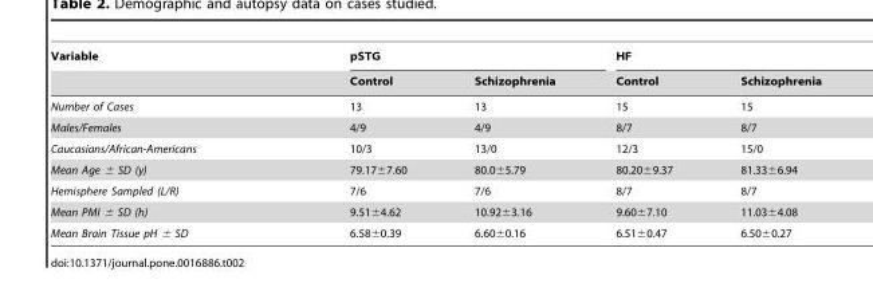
<table><thead><tr><td rowspan="2">Variable</td><td colspan="2">pSTG</td><td colspan="2">HF</td></tr><tr><td>Control</td><td>Schizophrenia</td><td>Control</td><td>Schizophrenia</td></tr></thead><tbody><tr><td>Number of Cases</td><td>13</td><td>13</td><td>15</td><td>15</td></tr><tr><td>Males/Females</td><td>4/9</td><td>4/9</td><td>8/7</td><td>8/7</td></tr><tr><td>Caucasians/African-Americans</td><td>10/3</td><td>13/0</td><td>12/3</td><td>15/0</td></tr><tr><td>Mean Age ± SD (y)</td><td>79.17±7.60</td><td>80.0±5.79</td><td>80.20±9.37</td><td>81.33±6.94</td></tr><tr><td>Hemisphere Sampled (L/R)</td><td>7/6</td><td>7/6</td><td>8/7</td><td>8/7</td></tr><tr><td>Mean PMI ± SD (h)</td><td>9.51±4.62</td><td>10.92±3.16</td><td>9.60±7.10</td><td>11.03±4.08</td></tr><tr><td>Mean Brain Tissue pH ± SD</td><td>6.58±0.39</td><td>6.60±0.16</td><td>6.51±0.47</td><td>6.50±0.27</td></tr></tbody></table>